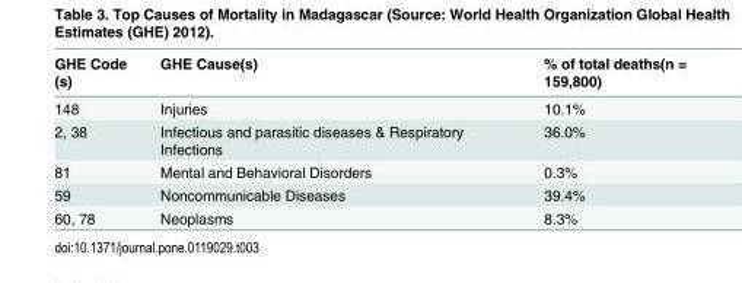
<table><thead><tr><td>GHE Code (s)</td><td>GHE Cause(s)</td><td>% of total deaths(n = 159,800)</td></tr></thead><tbody><tr><td>148</td><td>Injuries</td><td>10.1%</td></tr><tr><td>2, 38</td><td>Infectious and parasitic diseases &amp; Respiratory Infections</td><td>36.0%</td></tr><tr><td>81</td><td>Mental and Behavioral Disorders</td><td>0.3%</td></tr><tr><td>59</td><td>Noncommunicable Diseases</td><td>39.4%</td></tr><tr><td>60, 78</td><td>Neoplasms</td><td>8.3%</td></tr></tbody></table>